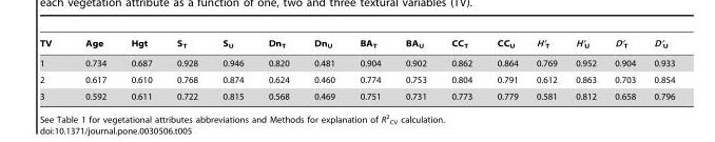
<table><thead><tr><td>TV</td><td>Age</td><td>Hgt</td><td>S<sub>T</sub></td><td>S<sub>U</sub></td><td>Dn<sub>T</sub></td><td>Dn<sub>U</sub></td><td>BA<sub>T</sub></td><td>BA<sub>U</sub></td><td>CC<sub>T</sub></td><td>CC<sub>U</sub></td><td>H’<sub>T</sub></td><td>H’<sub>U</sub></td><td>D’<sub>T</sub></td><td>D’<sub>U</sub></td></tr></thead><tbody><tr><td>1</td><td>0.734</td><td>0.687</td><td>0.928</td><td>0.946</td><td>0.820</td><td>0.481</td><td>0.904</td><td>0.902</td><td>0.862</td><td>0.864</td><td>0.769</td><td>0.952</td><td>0.904</td><td>0.933</td></tr><tr><td>2</td><td>0.617</td><td>0.610</td><td>0.768</td><td>0.874</td><td>0.624</td><td>0.460</td><td>0.774</td><td>0.753</td><td>0.804</td><td>0.791</td><td>0.612</td><td>0.863</td><td>0.703</td><td>0.854</td></tr><tr><td>3</td><td>0.592</td><td>0.611</td><td>0.722</td><td>0.815</td><td>0.568</td><td>0.469</td><td>0.751</td><td>0.731</td><td>0.773</td><td>0.779</td><td>0.581</td><td>0.812</td><td>0.658</td><td>0.796</td></tr></tbody></table>